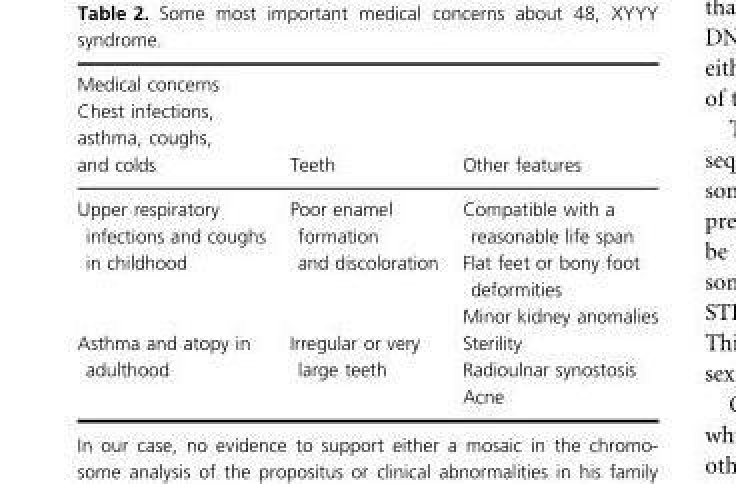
<table><thead><tr><td colspan="3">Medical concerns</td></tr><tr><td>Chest infections, asthma, coughs, and colds</td><td>Teeth</td><td>Other features</td></tr></thead><tbody><tr><td rowspan="3">Upper respiratory infections and coughs in childhood</td><td rowspan="3">Poor enamel formation and discoloration</td><td>Compatible with a reasonable life span</td></tr><tr><td>Flat feet or bony foot deformities</td></tr><tr><td>Minor kidney anomalies</td></tr><tr><td rowspan="3">Asthma and atopy in adulthood</td><td rowspan="3">Irregular or very large teeth</td><td>Sterility</td></tr><tr><td>Radioulnar synostosis</td></tr><tr><td>Acne</td></tr></tbody></table>